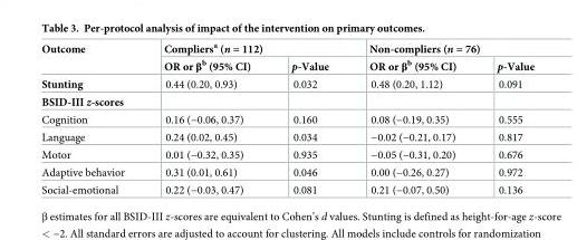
<table><thead><tr><td rowspan="2">Outcome</td><td colspan="2">Compliers<sup>a</sup> (n = 112)</td><td colspan="2">Non-compliers (n = 76)</td></tr><tr><td>OR or β<sup>b</sup> (95% CI)</td><td>p-Value</td><td>OR or β<sup>b</sup> (95% CI)</td><td>p-Value</td></tr></thead><tbody><tr><td>Stunting</td><td>0.44 (0.20, 0.93)</td><td>0.032</td><td>0.48 (0.20, 1.12)</td><td>0.091</td></tr><tr><td colspan="5">BSID-III z-scores</td></tr><tr><td>Cognition</td><td>0.16 (−0.06, 0.37)</td><td>0.160</td><td>0.08 (−0.19, 0.35)</td><td>0.555</td></tr><tr><td>Language</td><td>0.24 (0.02, 0.45)</td><td>0.034</td><td>−0.02 (−0.21, 0.17)</td><td>0.817</td></tr><tr><td>Motor</td><td>0.01 (−0.32, 0.35)</td><td>0.935</td><td>−0.05 (−0.31, 0.20)</td><td>0.676</td></tr><tr><td>Adaptive behavior</td><td>0.31 (0.01, 0.61)</td><td>0.046</td><td>0.00 (−0.26, 0.27)</td><td>0.972</td></tr><tr><td>Social-emotional</td><td>0.22 (−0.03, 0.47)</td><td>0.081</td><td>0.21 (−0.07, 0.50)</td><td>0.136</td></tr></tbody></table>